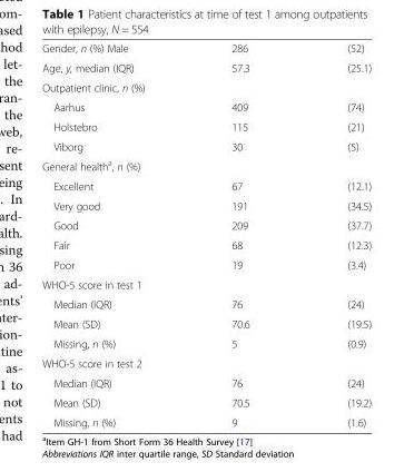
<table><tbody><tr><td>Gender, n (%) Male</td><td>286</td><td>(52)</td></tr><tr><td>Age, y, median (IQR)</td><td>57.3</td><td>(25.1)</td></tr><tr><td colspan="3">Outpatient clinic, n (%)</td></tr><tr><td>Aarhus</td><td>409</td><td>(74)</td></tr><tr><td>Holstebro</td><td>115</td><td>(21)</td></tr><tr><td>Viborg</td><td>30</td><td>(5)</td></tr><tr><td colspan="3">General health<sup>a</sup>, n (%)</td></tr><tr><td>Excellent</td><td>67</td><td>(12.1)</td></tr><tr><td>Very good</td><td>191</td><td>(34.5)</td></tr><tr><td>Good</td><td>209</td><td>(37.7)</td></tr><tr><td>Fair</td><td>68</td><td>(12.3)</td></tr><tr><td>Poor</td><td>19</td><td>(3.4)</td></tr><tr><td colspan="3">WHO-5 score in test 1</td></tr><tr><td>Median (IQR)</td><td>76</td><td>(24)</td></tr><tr><td>Mean (SD)</td><td>70.6</td><td>(19.5)</td></tr><tr><td>Missing, n (%)</td><td>5</td><td>(0.9)</td></tr><tr><td colspan="3">WHO-5 score in test 2</td></tr><tr><td>Median (IQR)</td><td>76</td><td>(24)</td></tr><tr><td>Mean (SD)</td><td>70.5</td><td>(19.2)</td></tr><tr><td>Missing, n (%)</td><td>9</td><td>(1.6)</td></tr></tbody></table>